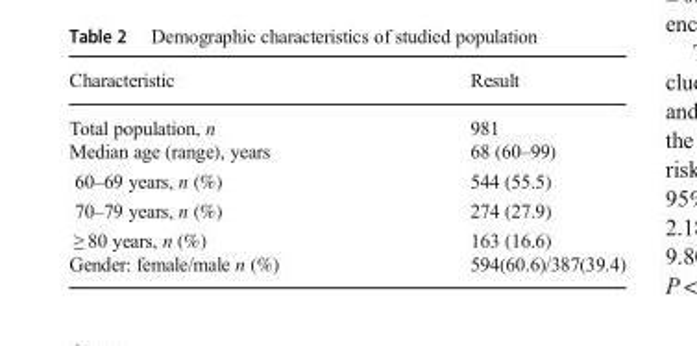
<table><thead><tr><td>Characteristic</td><td>Result</td></tr></thead><tbody><tr><td>Total population, n Median age (range), years</td><td>981 68 (60–99)</td></tr><tr><td>60–69 years, n (%)</td><td>544 (55.5)</td></tr><tr><td>70–79 years, n (%)</td><td>274 (27.9)</td></tr><tr><td>≥ 80 years, n (%) Gender: female/male n (%)</td><td>163 (16.6) 594(60.6)/387(39.4)</td></tr></tbody></table>